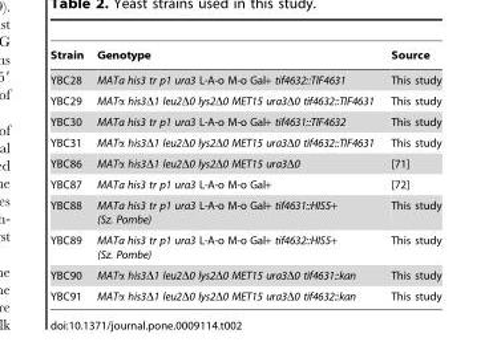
<table><thead><tr><td>Strain</td><td>Genotype</td><td>Source</td></tr></thead><tbody><tr><td>YBC28</td><td>MATa his3 tr p1 ura3 L-A-o M-o Gal+ tif4632::TIF4631</td><td>This study</td></tr><tr><td>YBC29</td><td>MATα his3Δ1 leu2Δ0 lys2Δ0 MET15 ura3Δ0 tif4632::TIF4631</td><td>This study</td></tr><tr><td>YBC30</td><td>MATa his3 tr p1 ura3 L-A-o M-o Gal+ tif4631::TIF4632</td><td>This study</td></tr><tr><td>YBC31</td><td>MATα his3Δ1 leu2Δ0 lys2Δ0 MET15 ura3Δ0 tif4632::TIF4631</td><td>This study</td></tr><tr><td>YBC86</td><td>MATα his3Δ1 leu2Δ0 lys2Δ0 MET15 ura3Δ0</td><td>[71]</td></tr><tr><td>YBC87</td><td>MATa his3 tr p1 ura3 L-A-o M-o Gal+</td><td>[72]</td></tr><tr><td>YBC88</td><td>MATa his3 tr p1 ura3 L-A-o M-o Gal+ tif4631::HIS5+ (Sz. Pombe)</td><td>This study</td></tr><tr><td>YBC89</td><td>MATa his3 tr p1 ura3 L-A-o M-o Gal+ tif4632::HIS5+ (Sz. Pombe)</td><td>This study</td></tr><tr><td>YBC90</td><td>MATα his3Δ1 leu2Δ0 lys2Δ0 MET15 ura3Δ0 tif4631::kan</td><td>This study</td></tr><tr><td>YBC91</td><td>MATα his3Δ1 leu2Δ0 lys2Δ0 MET15 ura3Δ0 tif4632::kan</td><td>This study</td></tr></tbody></table>